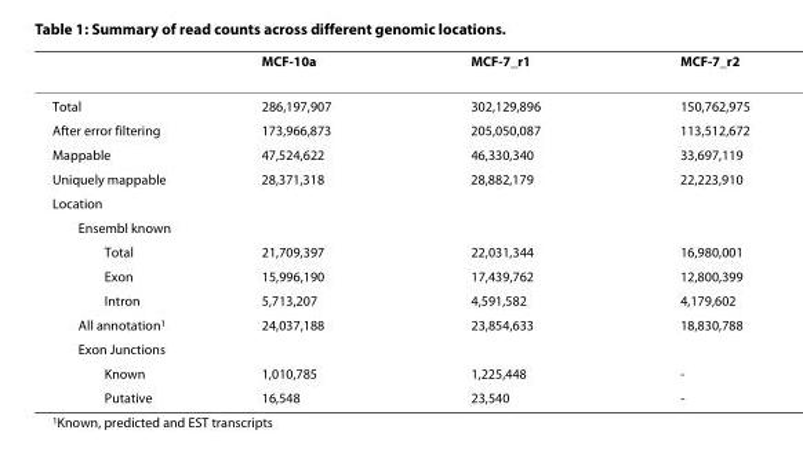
<table><thead><tr><td></td><td>MCF-10a</td><td>MCF-7_r1</td><td>MCF-7_r2</td></tr></thead><tbody><tr><td>Total</td><td>286,197,907</td><td>302,129,896</td><td>150,762,975</td></tr><tr><td>After error filtering</td><td>173,966,873</td><td>205,050,087</td><td>113,512,672</td></tr><tr><td>Mappable</td><td>47,524,622</td><td>46,330,340</td><td>33,697,119</td></tr><tr><td>Uniquely mappable</td><td>28,371,318</td><td>28,882,179</td><td>22,223,910</td></tr><tr><td colspan="4">Location</td></tr><tr><td colspan="4">Ensembl known</td></tr><tr><td>Total</td><td>21,709,397</td><td>22,031,344</td><td>16,980,001</td></tr><tr><td>Exon</td><td>15,996,190</td><td>17,439,762</td><td>12,800,399</td></tr><tr><td>Intron</td><td>5,713,207</td><td>4,591,582</td><td>4,179,602</td></tr><tr><td>All annotation<sup>1</sup></td><td>24,037,188</td><td>23,854,633</td><td>18,830,788</td></tr><tr><td colspan="4">Exon Junctions</td></tr><tr><td>Known</td><td>1,010,785</td><td>1,225,448</td><td>-</td></tr><tr><td>Putative</td><td>16,548</td><td>23,540</td><td>-</td></tr></tbody></table>